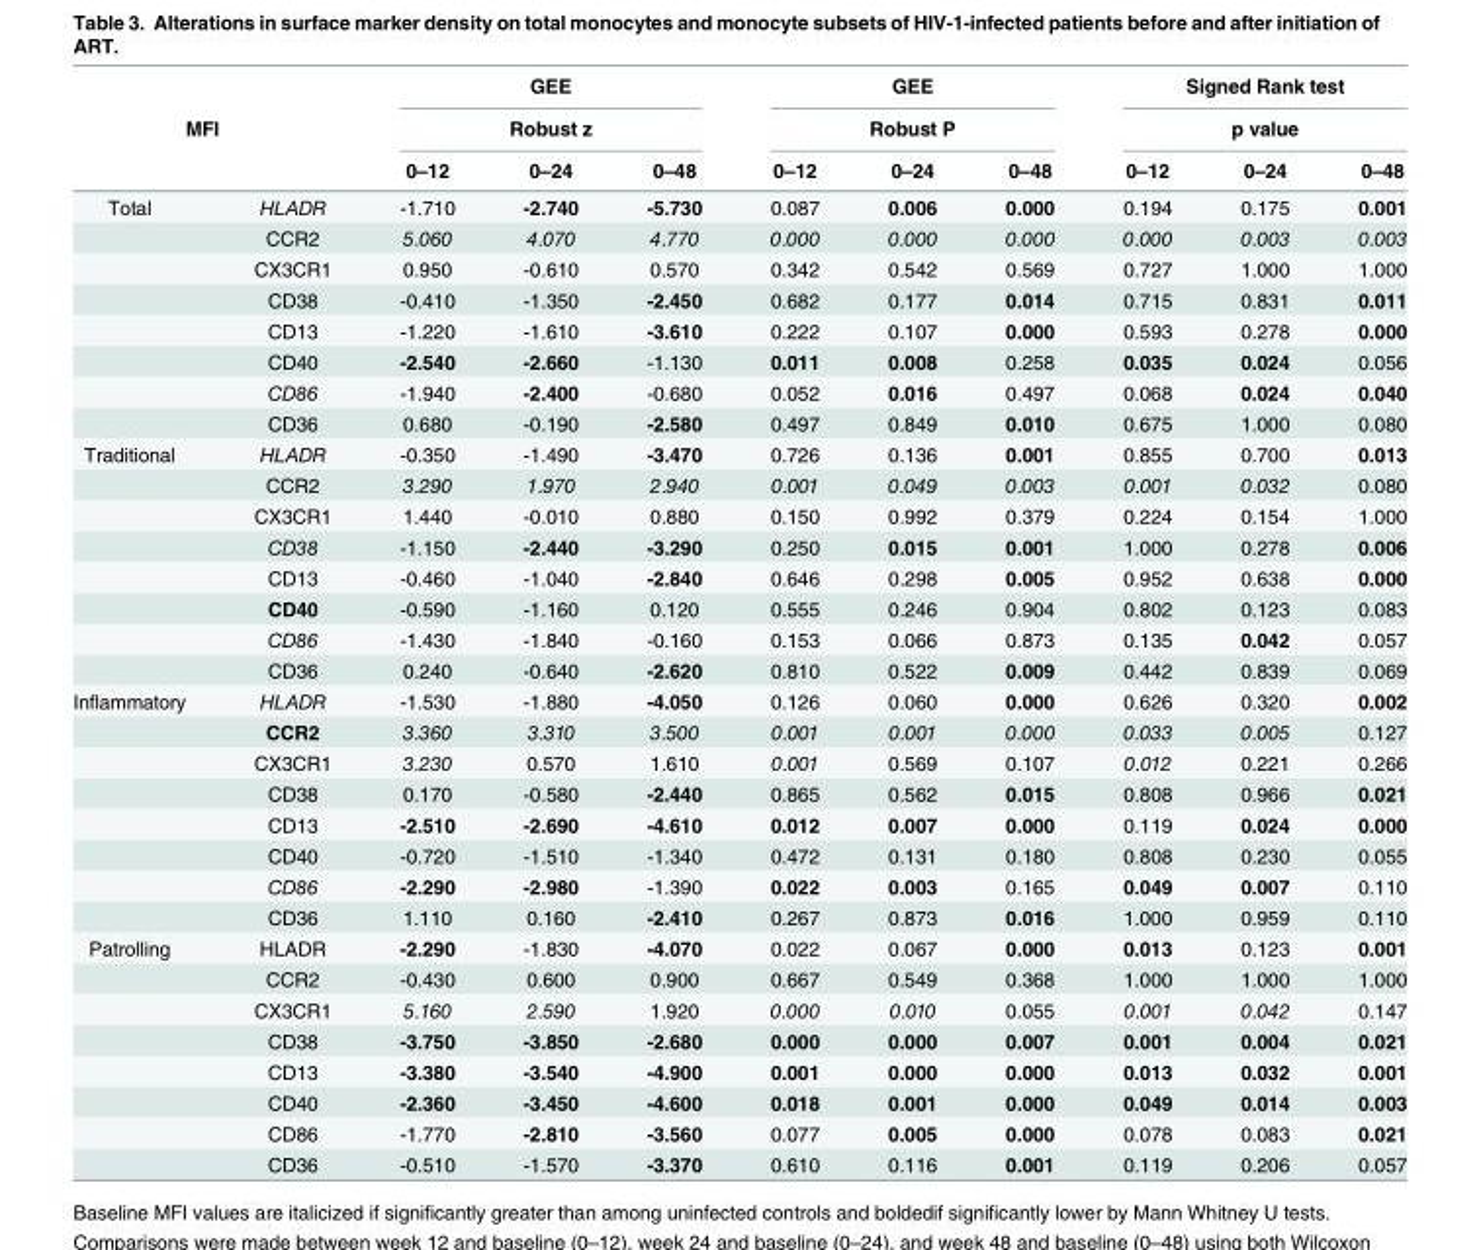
<table><thead><tr><td></td><td></td><td rowspan="2" colspan="3">GEE Robust z</td><td rowspan="2" colspan="3">GEE Robust P</td><td rowspan="2" colspan="3">Signed Rank test p value</td></tr><tr><td colspan="2">MFI</td></tr><tr><td></td><td></td><td>0–12</td><td>0–24</td><td>0–48</td><td>0–12</td><td>0–24</td><td>0–48</td><td>0–12</td><td>0–24</td><td>0–48</td></tr></thead><tbody><tr><td rowspan="8">Total</td><td>HLADR</td><td>-1.710</td><td>-2.740</td><td>-5.730</td><td>0.087</td><td>0.006</td><td>0.000</td><td>0.194</td><td>0.175</td><td>0.001</td></tr><tr><td>CCR2</td><td>5.060</td><td>4.070</td><td>4.770</td><td>0.000</td><td>0.000</td><td>0.000</td><td>0.000</td><td>0.003</td><td>0.003</td></tr><tr><td>CX3CR1</td><td>0.950</td><td>-0.610</td><td>0.570</td><td>0.342</td><td>0.542</td><td>0.569</td><td>0.727</td><td>1.000</td><td>1.000</td></tr><tr><td>CD38</td><td>-0.410</td><td>-1.350</td><td>-2.450</td><td>0.682</td><td>0.177</td><td>0.014</td><td>0.715</td><td>0.831</td><td>0.011</td></tr><tr><td>CD13</td><td>-1.220</td><td>-1.610</td><td>-3.610</td><td>0.222</td><td>0.107</td><td>0.000</td><td>0.593</td><td>0.278</td><td>0.000</td></tr><tr><td>CD40</td><td>-2.540</td><td>-2.660</td><td>-1.130</td><td>0.011</td><td>0.008</td><td>0.258</td><td>0.035</td><td>0.024</td><td>0.056</td></tr><tr><td>CD86</td><td>-1.940</td><td>-2.400</td><td>-0.680</td><td>0.052</td><td>0.016</td><td>0.497</td><td>0.068</td><td>0.024</td><td>0.040</td></tr><tr><td>CD36</td><td>0.680</td><td>-0.190</td><td>-2.580</td><td>0.497</td><td>0.849</td><td>0.010</td><td>0.675</td><td>1.000</td><td>0.080</td></tr><tr><td rowspan="8">Traditional</td><td>HLADR</td><td>-0.350</td><td>-1.490</td><td>-3.470</td><td>0.726</td><td>0.136</td><td>0.001</td><td>0.855</td><td>0.700</td><td>0.013</td></tr><tr><td>CCR2</td><td>3.290</td><td>1.970</td><td>2.940</td><td>0.001</td><td>0.049</td><td>0.003</td><td>0.001</td><td>0.032</td><td>0.080</td></tr><tr><td>CX3CR1</td><td>1.440</td><td>-0.010</td><td>0.880</td><td>0.150</td><td>0.992</td><td>0.379</td><td>0.224</td><td>0.154</td><td>1.000</td></tr><tr><td>CD38</td><td>-1.150</td><td>-2.440</td><td>-3.290</td><td>0.250</td><td>0.015</td><td>0.001</td><td>1.000</td><td>0.278</td><td>0.006</td></tr><tr><td>CD13</td><td>-0.460</td><td>-1.040</td><td>-2.840</td><td>0.646</td><td>0.298</td><td>0.005</td><td>0.952</td><td>0.638</td><td>0.000</td></tr><tr><td>CD40</td><td>-0.590</td><td>-1.160</td><td>0.120</td><td>0.555</td><td>0.246</td><td>0.904</td><td>0.802</td><td>0.123</td><td>0.083</td></tr><tr><td>CD86</td><td>-1.430</td><td>-1.840</td><td>-0.160</td><td>0.153</td><td>0.066</td><td>0.873</td><td>0.135</td><td>0.042</td><td>0.057</td></tr><tr><td>CD36</td><td>0.240</td><td>-0.640</td><td>-2.620</td><td>0.810</td><td>0.522</td><td>0.009</td><td>0.442</td><td>0.839</td><td>0.069</td></tr><tr><td rowspan="8">Inflammatory</td><td>HLADR</td><td>-1.530</td><td>-1.880</td><td>-4.050</td><td>0.126</td><td>0.060</td><td>0.000</td><td>0.626</td><td>0.320</td><td>0.002</td></tr><tr><td>CCR2</td><td>3.360</td><td>3.310</td><td>3.500</td><td>0.001</td><td>0.001</td><td>0.000</td><td>0.033</td><td>0.005</td><td>0.127</td></tr><tr><td>CX3CR1</td><td>3.230</td><td>0.570</td><td>1.610</td><td>0.001</td><td>0.569</td><td>0.107</td><td>0.012</td><td>0.221</td><td>0.266</td></tr><tr><td>CD38</td><td>0.170</td><td>-0.580</td><td>-2.440</td><td>0.865</td><td>0.562</td><td>0.015</td><td>0.808</td><td>0.966</td><td>0.021</td></tr><tr><td>CD13</td><td>-2.510</td><td>-2.690</td><td>-4.610</td><td>0.012</td><td>0.007</td><td>0.000</td><td>0.119</td><td>0.024</td><td>0.000</td></tr><tr><td>CD40</td><td>-0.720</td><td>-1.510</td><td>-1.340</td><td>0.472</td><td>0.131</td><td>0.180</td><td>0.808</td><td>0.230</td><td>0.055</td></tr><tr><td>CD86</td><td>-2.290</td><td>-2.980</td><td>-1.390</td><td>0.022</td><td>0.003</td><td>0.165</td><td>0.049</td><td>0.007</td><td>0.110</td></tr><tr><td>CD36</td><td>1.110</td><td>0.160</td><td>-2.410</td><td>0.267</td><td>0.873</td><td>0.016</td><td>1.000</td><td>0.959</td><td>0.110</td></tr><tr><td rowspan="8">Patrolling</td><td>HLADR</td><td>-2.290</td><td>-1.830</td><td>-4.070</td><td>0.022</td><td>0.067</td><td>0.000</td><td>0.013</td><td>0.123</td><td>0.001</td></tr><tr><td>CCR2</td><td>-0.430</td><td>0.600</td><td>0.900</td><td>0.667</td><td>0.549</td><td>0.368</td><td>1.000</td><td>1.000</td><td>1.000</td></tr><tr><td>CX3CR1</td><td>5.160</td><td>2.590</td><td>1.920</td><td>0.000</td><td>0.010</td><td>0.055</td><td>0.001</td><td>0.042</td><td>0.147</td></tr><tr><td>CD38</td><td>-3.750</td><td>-3.850</td><td>-2.680</td><td>0.000</td><td>0.000</td><td>0.007</td><td>0.001</td><td>0.004</td><td>0.021</td></tr><tr><td>CD13</td><td>-3.380</td><td>-3.540</td><td>-4.900</td><td>0.001</td><td>0.000</td><td>0.000</td><td>0.013</td><td>0.032</td><td>0.001</td></tr><tr><td>CD40</td><td>-2.360</td><td>-3.450</td><td>-4.600</td><td>0.018</td><td>0.001</td><td>0.000</td><td>0.049</td><td>0.014</td><td>0.003</td></tr><tr><td>CD86</td><td>-1.770</td><td>-2.810</td><td>-3.560</td><td>0.077</td><td>0.005</td><td>0.000</td><td>0.078</td><td>0.083</td><td>0.021</td></tr><tr><td>CD36</td><td>-0.510</td><td>-1.570</td><td>-3.370</td><td>0.610</td><td>0.116</td><td>0.001</td><td>0.119</td><td>0.206</td><td>0.057</td></tr></tbody></table>